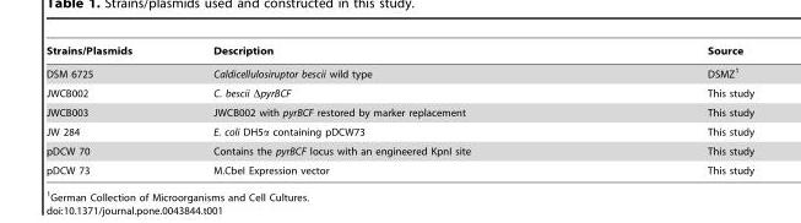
<table><thead><tr><td>Strains/Plasmids</td><td>Description</td><td>Source</td></tr></thead><tbody><tr><td>DSM 6725</td><td>Caldicellulosiruptor bescii wild type</td><td>DSMZ<sup>1</sup></td></tr><tr><td>JWCB002</td><td>C. bescii ΔpyrBCF</td><td>This study</td></tr><tr><td>JWCB003</td><td>JWCB002 with pyrBCF restored by marker replacement</td><td>This study</td></tr><tr><td>JW 284</td><td>E. coli DH5α containing pDCW73</td><td>This study</td></tr><tr><td>pDCW 70</td><td>Contains the pyrBCF locus with an engineered KpnI site</td><td>This study</td></tr><tr><td>pDCW 73</td><td>M.CbeI Expression vector</td><td>This study</td></tr></tbody></table>